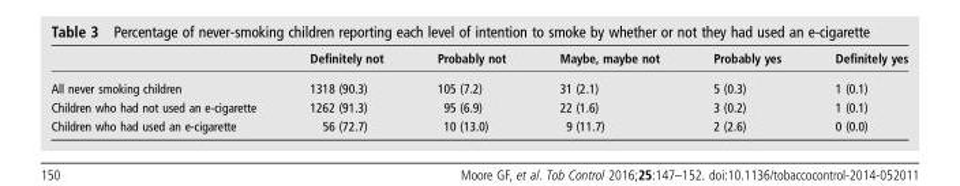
<table><thead><tr><td></td><td>Definitely not</td><td>Probably not</td><td>Maybe, maybe not</td><td>Probably yes</td><td>Definitely yes</td></tr></thead><tbody><tr><td>All never smoking children</td><td>1318 (90.3)</td><td>105 (7.2)</td><td>31 (2.1)</td><td>5 (0.3)</td><td>1 (0.1)</td></tr><tr><td>Children who had not used an e-cigarette</td><td>1262 (91.3)</td><td>95 (6.9)</td><td>22 (1.6)</td><td>3 (0.2)</td><td>1 (0.1)</td></tr><tr><td>Children who had used an e-cigarette</td><td>56 (72.7)</td><td>10 (13.0)</td><td>9 (11.7)</td><td>2 (2.6)</td><td>0 (0.0)</td></tr></tbody></table>